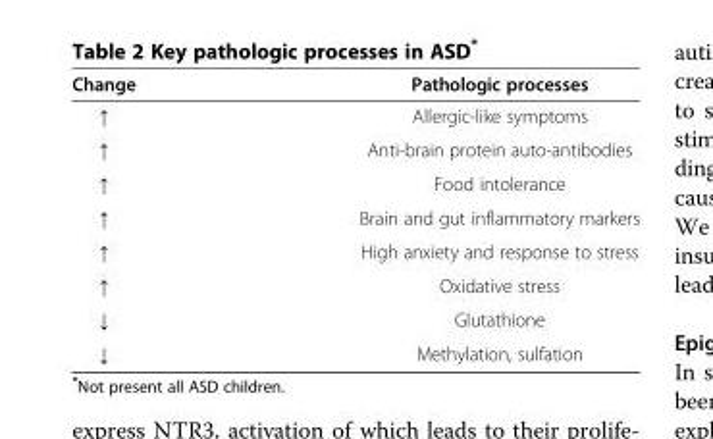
<table><thead><tr><td>Change</td><td>Pathologic processes</td></tr></thead><tbody><tr><td>↑</td><td>Allergic-like symptoms</td></tr><tr><td>↑</td><td>Anti-brain protein auto-antibodies</td></tr><tr><td>↑</td><td>Food intolerance</td></tr><tr><td>↑</td><td>Brain and gut inflammatory markers</td></tr><tr><td>↑</td><td>High anxiety and response to stress</td></tr><tr><td>↑</td><td>Oxidative stress</td></tr><tr><td>↓</td><td>Glutathione</td></tr><tr><td>↓</td><td>Methylation, sulfation</td></tr></tbody></table>